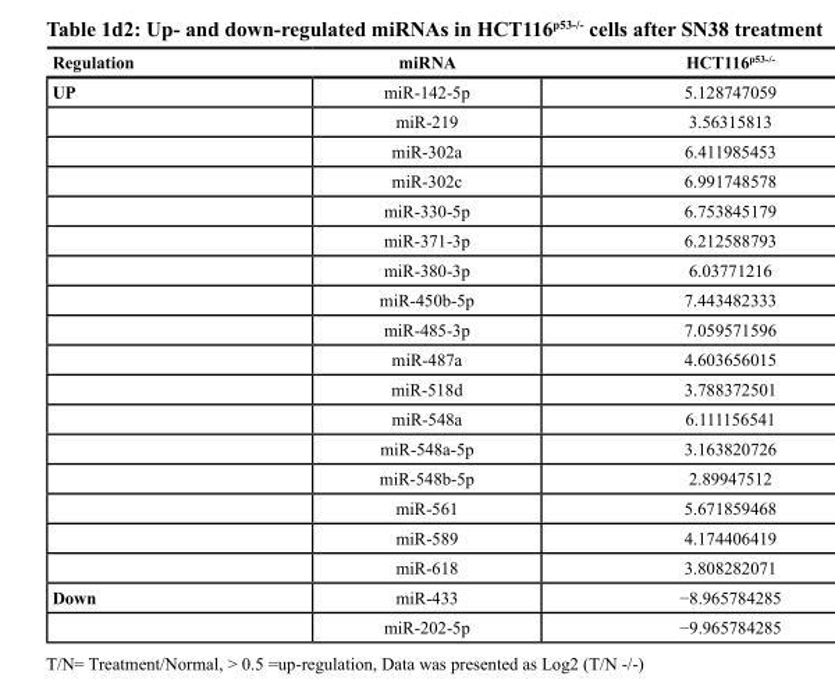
<table><thead><tr><td>Regulation</td><td>miRNA</td><td>HCT116<sup>p53-/-</sup></td></tr></thead><tbody><tr><td rowspan="17">UP</td><td>miR-142-5p</td><td>5.128747059</td></tr><tr><td>miR-219</td><td>3.56315813</td></tr><tr><td>miR-302a</td><td>6.411985453</td></tr><tr><td>miR-302c</td><td>6.991748578</td></tr><tr><td>miR-330-5p</td><td>6.753845179</td></tr><tr><td>miR-371-3p</td><td>6.212588793</td></tr><tr><td>miR-380-3p</td><td>6.03771216</td></tr><tr><td>miR-450b-5p</td><td>7.443482333</td></tr><tr><td>miR-485-3p</td><td>7.059571596</td></tr><tr><td>miR-487a</td><td>4.603656015</td></tr><tr><td>miR-518d</td><td>3.788372501</td></tr><tr><td>miR-548a</td><td>6.111156541</td></tr><tr><td>miR-548a-5p</td><td>3.163820726</td></tr><tr><td>miR-548b-5p</td><td>2.89947512</td></tr><tr><td>miR-561</td><td>5.671859468</td></tr><tr><td>miR-589</td><td>4.174406419</td></tr><tr><td>miR-618</td><td>3.808282071</td></tr><tr><td rowspan="2">Down</td><td>miR-433</td><td>−8.965784285</td></tr><tr><td>miR-202-5p</td><td>−9.965784285</td></tr></tbody></table>